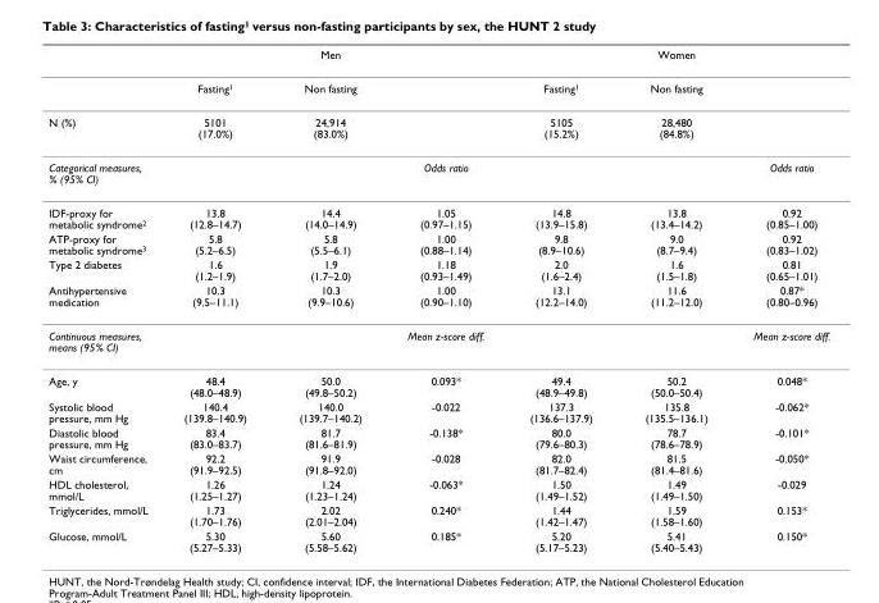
<table><thead><tr><td rowspan="2"></td><td colspan="3">Men</td><td colspan="3">Women</td></tr><tr><td>Fasting<sup>1</sup></td><td>Non fasting</td><td></td><td>Fasting<sup>1</sup></td><td>Non fasting</td><td></td></tr></thead><tbody><tr><td>N (%)</td><td>5101 (17.0%)</td><td>24,914 (83.0%)</td><td></td><td>5105 (15.2%)</td><td>28,480 (84.8%)</td><td></td></tr><tr><td>Categorical measures, % (95% CI)</td><td></td><td></td><td>Odds ratio</td><td></td><td></td><td>Odds ratio</td></tr><tr><td>IDF-proxy for metabolic syndrome<sup>2</sup></td><td>13.8 (12.8–14.7)</td><td>14.4 (14.0–14.9)</td><td>1.05 (0.97–1.15)</td><td>14.8 (13.9–15.8)</td><td>13.8 (13.4–14.2)</td><td>0.92 (0.85–1.00)</td></tr><tr><td>ATP-proxy for metabolic syndrome<sup>3</sup></td><td>5.8 (5.2–6.5)</td><td>5.8 (5.5–6.1)</td><td>1.00 (0.88–1.14)</td><td>9.8 (8.9–10.6)</td><td>9.0 (8.7–9.4)</td><td>0.92 (0.83–1.02)</td></tr><tr><td>Type 2 diabetes</td><td>1.6 (1.2–1.9)</td><td>1.9 (1.7–2.0)</td><td>1.18 (0.93–1.49)</td><td>2.0 (1.6–2.4)</td><td>1.6 (1.5–1.8)</td><td>0.81 (0.65–1.01)</td></tr><tr><td>Antihypertensive medication</td><td>10.3 (9.5–11.1)</td><td>10.3 (9.9–10.6)</td><td>1.00 (0.90–1.10)</td><td>13.1 (12.2–14.0)</td><td>11.6 (11.2–12.0)</td><td>0.87* (0.80–0.96)</td></tr><tr><td>Continuous measures, means (95% CI)</td><td></td><td></td><td>Mean z-score diff.</td><td></td><td></td><td>Mean z-score diff.</td></tr><tr><td>Age, y</td><td>48.4 (48.0–48.9)</td><td>50.0 (49.8–50.2)</td><td>0.093*</td><td>49.4 (48.9–49.8)</td><td>50.2 (50.0–50.4)</td><td>0.048*</td></tr><tr><td>Systolic blood pressure, mm Hg</td><td>140.4 (139.8–140.9)</td><td>140.0 (139.7–140.2)</td><td>-0.022</td><td>137.3 (136.6–137.9)</td><td>135.8 (135.5–136.1)</td><td>-0.062*</td></tr><tr><td>Diastolic blood pressure, mm Hg</td><td>83.4 (83.0–83.7)</td><td>81.7 (81.6–81.9)</td><td>-0.138*</td><td>80.0 (79.6–80.3)</td><td>78.7 (78.6–78.9)</td><td>-0.101*</td></tr><tr><td>Waist circumference, cm</td><td>92.2 (91.9–92.5)</td><td>91.9 (91.8–92.0)</td><td>-0.028</td><td>82.0 (81.7–82.4)</td><td>81.5 (81.4–81.6)</td><td>-0.050*</td></tr><tr><td>HDL cholesterol, mmol/L</td><td>1.26 (1.25–1.27)</td><td>1.24 (1.23–1.24)</td><td>-0.063*</td><td>1.50 (1.49–1.52)</td><td>1.49 (1.49–1.50)</td><td>-0.029</td></tr><tr><td>Triglycerides, mmol/L</td><td>1.73 (1.70–1.76)</td><td>2.02 (2.01–2.04)</td><td>0.240*</td><td>1.44 (1.42–1.47)</td><td>1.59 (1.58–1.60)</td><td>0.153*</td></tr><tr><td>Glucose, mmol/L</td><td>5.30 (5.27–5.33)</td><td>5.60 (5.58–5.62)</td><td>0.185*</td><td>5.20 (5.17–5.23)</td><td>5.41 (5.40–5.43)</td><td>0.150*</td></tr></tbody></table>